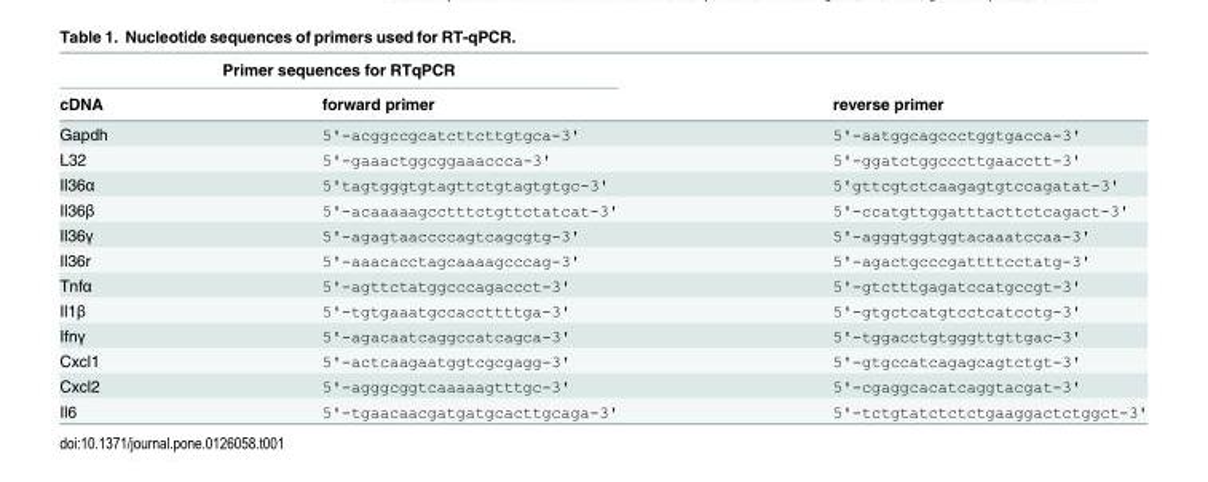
<table><thead><tr><td colspan="2">Primer sequences for RTqPCR</td><td rowspan="2">reverse primer</td></tr><tr><td>cDNA</td><td>forward primer</td></tr></thead><tbody><tr><td>Gapdh</td><td>5&#x27;-acggccgcatcttcttgtgca-3&#x27;</td><td>5&#x27;-aatggcagccctggtgacca-3&#x27;</td></tr><tr><td>L32</td><td>5&#x27;-gaaactggcggaaaccca-3&#x27;</td><td>5&#x27;-ggatctggcccttgaacctt-3&#x27;</td></tr><tr><td>Il36α</td><td>5&#x27;tagtgggtgtagttctgtagtgtgc-3&#x27;</td><td>5&#x27;gttcgtctcaagagtgtccagatat-3&#x27;</td></tr><tr><td>Il36β</td><td>5&#x27;-acaaaaagcctttctgttctatcat-3&#x27;</td><td>5&#x27;-ccatgttggatttacttctcagact-3&#x27;</td></tr><tr><td>Il36γ</td><td>5&#x27;-agagtaaccccagtcagcgtg-3&#x27;</td><td>5&#x27;-agggtggtggtacaaatccaa-3&#x27;</td></tr><tr><td>Il36r</td><td>5&#x27;-aaacacctagcaaaagcccag-3&#x27;</td><td>5&#x27;-agactgcccgattttcctatg-3&#x27;</td></tr><tr><td>Tnfα</td><td>5&#x27;-agttctatggcccagaccct-3&#x27;</td><td>5&#x27;-gtctttgagatccatgccgt-3&#x27;</td></tr><tr><td>Il1β</td><td>5&#x27;-tgtgaaatgccaccttttga-3&#x27;</td><td>5&#x27;-gtgctcatgtcctcatcctg-3&#x27;</td></tr><tr><td>Ifnγ</td><td>5&#x27;-agacaatcaggccatcagca-3&#x27;</td><td>5&#x27;-tggacctgtgggttgttgac-3&#x27;</td></tr><tr><td>Cxcl1</td><td>5&#x27;-actcaagaatggtcgcgagg-3&#x27;</td><td>5&#x27;-gtgccatcagagcagtctgt-3&#x27;</td></tr><tr><td>Cxcl2</td><td>5&#x27;-agggcggtcaaaaagtttgc-3&#x27;</td><td>5&#x27;-cgaggcacatcaggtacgat-3&#x27;</td></tr><tr><td>Il6</td><td>5&#x27;-tgaacaacgatgatgcacttgcaga-3&#x27;</td><td>5&#x27;-tctgtatctctctgaaggactctggct-3&#x27;</td></tr></tbody></table>